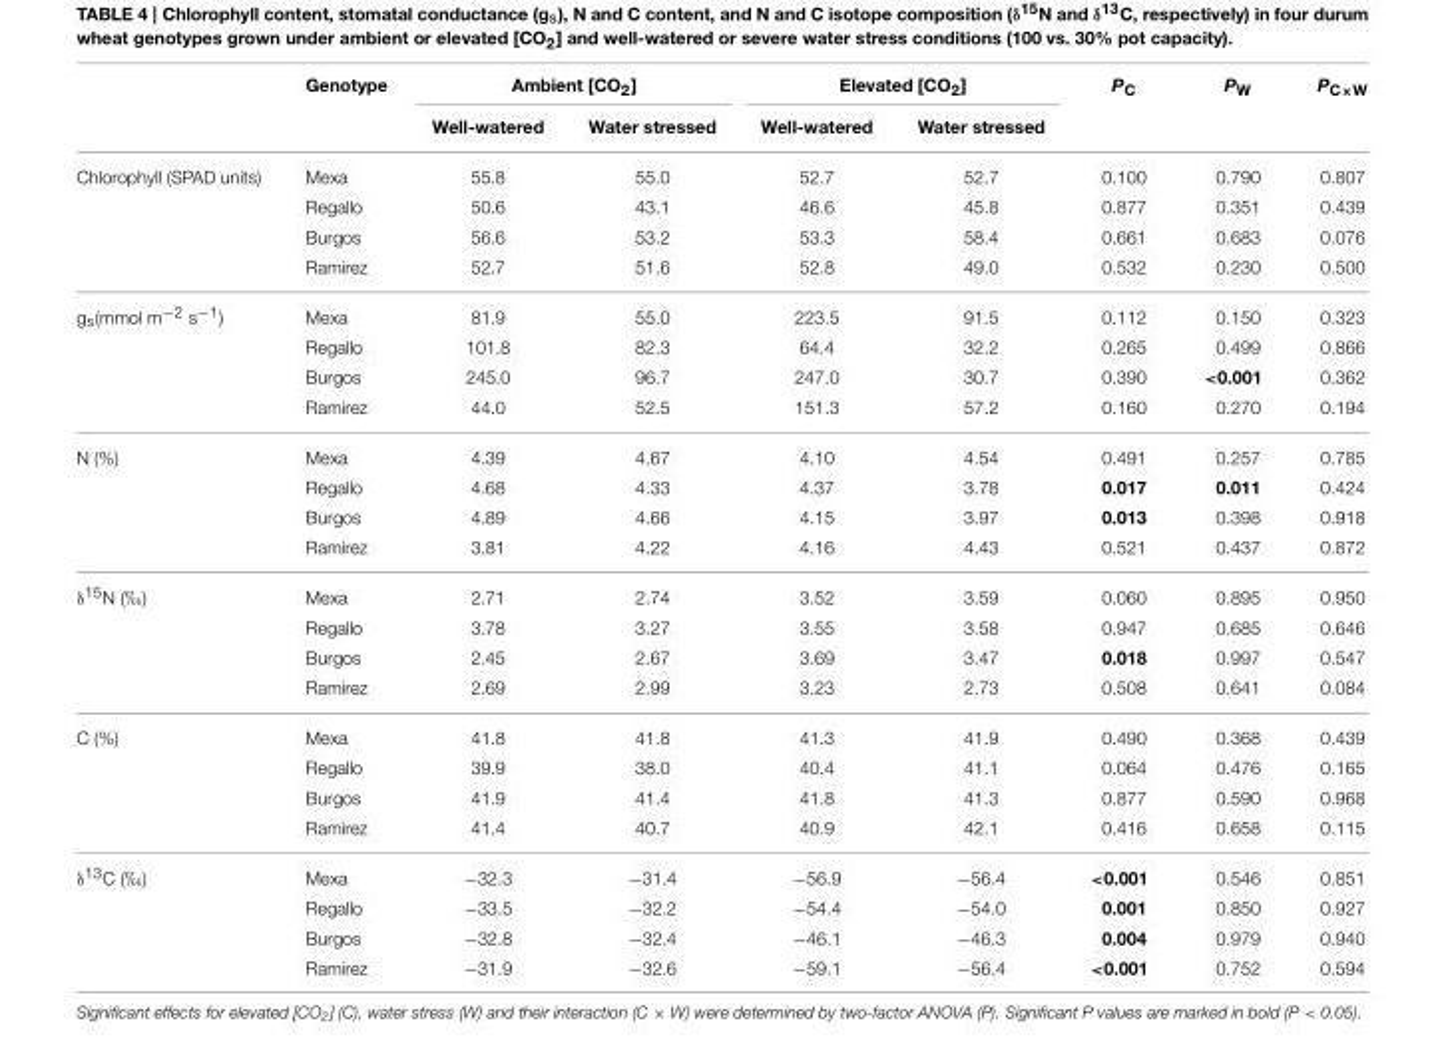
<table><thead><tr><td rowspan="2"></td><td rowspan="2">Genotype</td><td colspan="2">Ambient [CO<sub>2</sub>]</td><td colspan="2">Elevated [CO<sub>2</sub>]</td><td rowspan="2">P<sub>C</sub></td><td rowspan="2">P<sub>W</sub></td><td rowspan="2">P<sub>C×W</sub></td></tr><tr><td>Well-watered</td><td>Water stressed</td><td>Well-watered</td><td>Water stressed</td></tr></thead><tbody><tr><td rowspan="4">Chlorophyll (SPAD units)</td><td>Mexa</td><td>55.8</td><td>55.0</td><td>52.7</td><td>52.7</td><td>0.100</td><td>0.790</td><td>0.807</td></tr><tr><td>Regallo</td><td>50.6</td><td>43.1</td><td>46.6</td><td>45.8</td><td>0.877</td><td>0.351</td><td>0.439</td></tr><tr><td>Burgos</td><td>56.6</td><td>53.2</td><td>53.3</td><td>58.4</td><td>0.661</td><td>0.683</td><td>0.076</td></tr><tr><td>Ramirez</td><td>52.7</td><td>51.6</td><td>52.8</td><td>49.0</td><td>0.532</td><td>0.230</td><td>0.500</td></tr><tr><td rowspan="4">g<sub>s</sub>(mmol m<sup>−2</sup> s<sup>−1</sup>)</td><td>Mexa</td><td>81.9</td><td>55.0</td><td>223.5</td><td>91.5</td><td>0.112</td><td>0.150</td><td>0.323</td></tr><tr><td>Regallo</td><td>101.8</td><td>82.3</td><td>64.4</td><td>32.2</td><td>0.265</td><td>0.499</td><td>0.866</td></tr><tr><td>Burgos</td><td>245.0</td><td>96.7</td><td>247.0</td><td>30.7</td><td>0.390</td><td>&lt;0.001</td><td>0.362</td></tr><tr><td>Ramirez</td><td>44.0</td><td>52.5</td><td>151.3</td><td>57.2</td><td>0.160</td><td>0.270</td><td>0.194</td></tr><tr><td rowspan="4">N (%)</td><td>Mexa</td><td>4.39</td><td>4.67</td><td>4.10</td><td>4.54</td><td>0.491</td><td>0.257</td><td>0.785</td></tr><tr><td>Regallo</td><td>4.68</td><td>4.33</td><td>4.37</td><td>3.78</td><td>0.017</td><td>0.011</td><td>0.424</td></tr><tr><td>Burgos</td><td>4.89</td><td>4.66</td><td>4.15</td><td>3.97</td><td>0.013</td><td>0.398</td><td>0.918</td></tr><tr><td>Ramirez</td><td>3.81</td><td>4.22</td><td>4.16</td><td>4.43</td><td>0.521</td><td>0.437</td><td>0.872</td></tr><tr><td rowspan="4">δ<sup>15</sup>N (‰)</td><td>Mexa</td><td>2.71</td><td>2.74</td><td>3.52</td><td>3.59</td><td>0.060</td><td>0.895</td><td>0.950</td></tr><tr><td>Regallo</td><td>3.78</td><td>3.27</td><td>3.55</td><td>3.58</td><td>0.947</td><td>0.685</td><td>0.646</td></tr><tr><td>Burgos</td><td>2.45</td><td>2.67</td><td>3.69</td><td>3.47</td><td>0.018</td><td>0.997</td><td>0.547</td></tr><tr><td>Ramirez</td><td>2.69</td><td>2.99</td><td>3.23</td><td>2.73</td><td>0.508</td><td>0.641</td><td>0.084</td></tr><tr><td rowspan="4">C (%)</td><td>Mexa</td><td>41.8</td><td>41.8</td><td>41.3</td><td>41.9</td><td>0.490</td><td>0.368</td><td>0.439</td></tr><tr><td>Regallo</td><td>39.9</td><td>38.0</td><td>40.4</td><td>41.1</td><td>0.064</td><td>0.476</td><td>0.165</td></tr><tr><td>Burgos</td><td>41.9</td><td>41.4</td><td>41.8</td><td>41.3</td><td>0.877</td><td>0.590</td><td>0.968</td></tr><tr><td>Ramirez</td><td>41.4</td><td>40.7</td><td>40.9</td><td>42.1</td><td>0.416</td><td>0.658</td><td>0.115</td></tr><tr><td rowspan="4">δ<sup>13</sup>C (‰)</td><td>Mexa</td><td>−32.3</td><td>−31.4</td><td>−56.9</td><td>−56.4</td><td>&lt;0.001</td><td>0.546</td><td>0.851</td></tr><tr><td>Regallo</td><td>−33.5</td><td>−32.2</td><td>−54.4</td><td>−54.0</td><td>0.001</td><td>0.850</td><td>0.927</td></tr><tr><td>Burgos</td><td>−32.8</td><td>−32.4</td><td>−46.1</td><td>−46.3</td><td>0.004</td><td>0.979</td><td>0.940</td></tr><tr><td>Ramirez</td><td>−31.9</td><td>−32.6</td><td>−59.1</td><td>−56.4</td><td>&lt;0.001</td><td>0.752</td><td>0.594</td></tr></tbody></table>